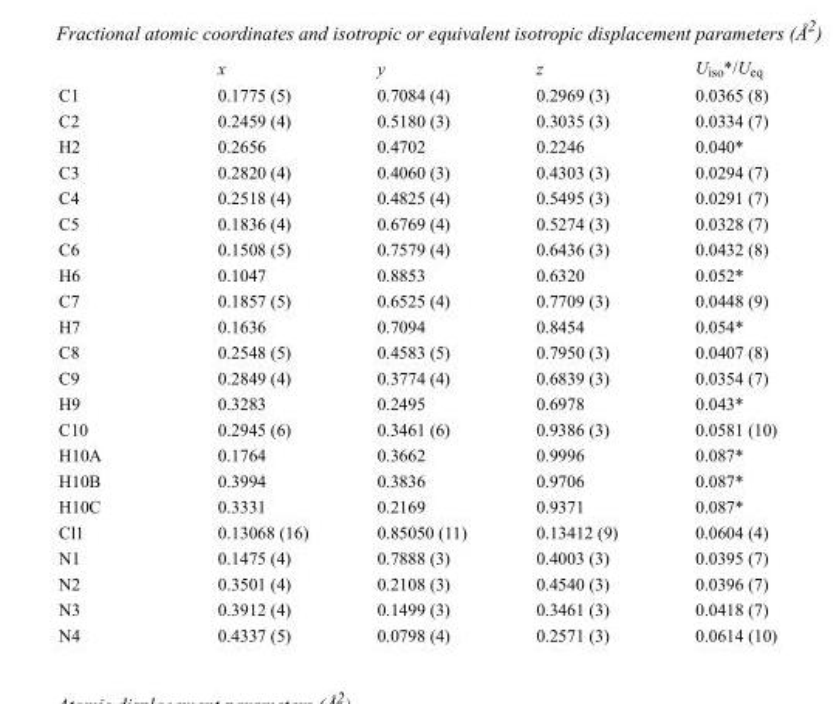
<table><thead><tr><td></td><td>x</td><td>y</td><td>z</td><td>U<sub>iso</sub>*/U<sub>eq</sub></td></tr></thead><tbody><tr><td>C1</td><td>0.1775 (5)</td><td>0.7084 (4)</td><td>0.2969 (3)</td><td>0.0365 (8)</td></tr><tr><td>C2</td><td>0.2459 (4)</td><td>0.5180 (3)</td><td>0.3035 (3)</td><td>0.0334 (7)</td></tr><tr><td>H2</td><td>0.2656</td><td>0.4702</td><td>0.2246</td><td>0.040*</td></tr><tr><td>C3</td><td>0.2820 (4)</td><td>0.4060 (3)</td><td>0.4303 (3)</td><td>0.0294 (7)</td></tr><tr><td>C4</td><td>0.2518 (4)</td><td>0.4825 (4)</td><td>0.5495 (3)</td><td>0.0291 (7)</td></tr><tr><td>C5</td><td>0.1836 (4)</td><td>0.6769 (4)</td><td>0.5274 (3)</td><td>0.0328 (7)</td></tr><tr><td>C6</td><td>0.1508 (5)</td><td>0.7579 (4)</td><td>0.6436 (3)</td><td>0.0432 (8)</td></tr><tr><td>H6</td><td>0.1047</td><td>0.8853</td><td>0.6320</td><td>0.052*</td></tr><tr><td>C7</td><td>0.1857 (5)</td><td>0.6525 (4)</td><td>0.7709 (3)</td><td>0.0448 (9)</td></tr><tr><td>H7</td><td>0.1636</td><td>0.7094</td><td>0.8454</td><td>0.054*</td></tr><tr><td>C8</td><td>0.2548 (5)</td><td>0.4583 (5)</td><td>0.7950 (3)</td><td>0.0407 (8)</td></tr><tr><td>C9</td><td>0.2849 (4)</td><td>0.3774 (4)</td><td>0.6839 (3)</td><td>0.0354 (7)</td></tr><tr><td>H9</td><td>0.3283</td><td>0.2495</td><td>0.6978</td><td>0.043*</td></tr><tr><td>C10</td><td>0.2945 (6)</td><td>0.3461 (6)</td><td>0.9386 (3)</td><td>0.0581 (10)</td></tr><tr><td>H10A</td><td>0.1764</td><td>0.3662</td><td>0.9996</td><td>0.087*</td></tr><tr><td>H10B</td><td>0.3994</td><td>0.3836</td><td>0.9706</td><td>0.087*</td></tr><tr><td>H10C</td><td>0.3331</td><td>0.2169</td><td>0.9371</td><td>0.087*</td></tr><tr><td>Cl1</td><td>0.13068 (16)</td><td>0.85050 (11)</td><td>0.13412 (9)</td><td>0.0604 (4)</td></tr><tr><td>N1</td><td>0.1475 (4)</td><td>0.7888 (3)</td><td>0.4003 (3)</td><td>0.0395 (7)</td></tr><tr><td>N2</td><td>0.3501 (4)</td><td>0.2108 (3)</td><td>0.4540 (3)</td><td>0.0396 (7)</td></tr><tr><td>N3</td><td>0.3912 (4)</td><td>0.1499 (3)</td><td>0.3461 (3)</td><td>0.0418 (7)</td></tr><tr><td>N4</td><td>0.4337 (5)</td><td>0.0798 (4)</td><td>0.2571 (3)</td><td>0.0614 (10)</td></tr></tbody></table>